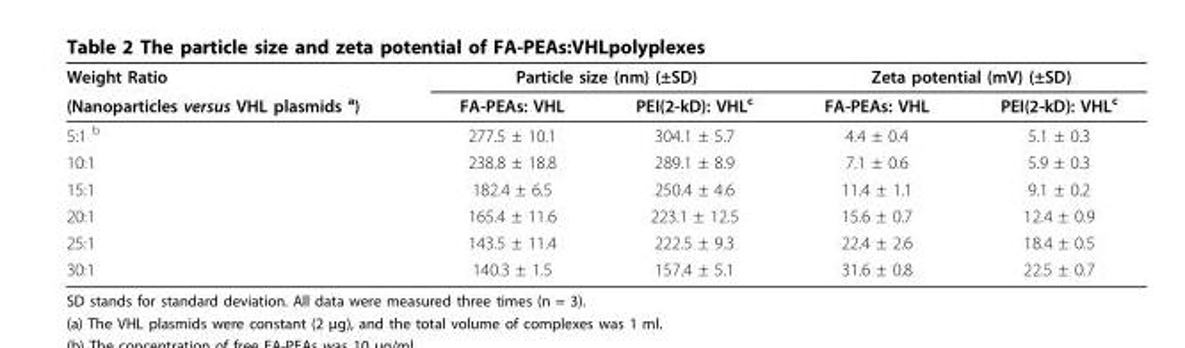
<table><thead><tr><td rowspan="2">Weight Ratio (Nanoparticles versus VHL plasmids <sup>a</sup>)</td><td colspan="2">Particle size (nm) (±SD)</td><td colspan="2">Zeta potential (mV) (±SD)</td></tr><tr><td>FA-PEAs: VHL</td><td>PEI(2-kD): VHL<sup>c</sup></td><td>FA-PEAs: VHL</td><td>PEI(2-kD): VHL<sup>c</sup></td></tr></thead><tbody><tr><td>5:1 <sup>b</sup></td><td>277.5 ± 10.1</td><td>304.1 ± 5.7</td><td>4.4 ± 0.4</td><td>5.1 ± 0.3</td></tr><tr><td>10:1</td><td>238.8 ± 18.8</td><td>289.1 ± 8.9</td><td>7.1 ± 0.6</td><td>5.9 ± 0.3</td></tr><tr><td>15:1</td><td>182.4 ± 6.5</td><td>250.4 ± 4.6</td><td>11.4 ± 1.1</td><td>9.1 ± 0.2</td></tr><tr><td>20:1</td><td>165.4 ± 11.6</td><td>223.1 ± 12.5</td><td>15.6 ± 0.7</td><td>12.4 ± 0.9</td></tr><tr><td>25:1</td><td>143.5 ± 11.4</td><td>222.5 ± 9.3</td><td>22.4 ± 2.6</td><td>18.4 ± 0.5</td></tr><tr><td>30:1</td><td>140.3 ± 1.5</td><td>157.4 ± 5.1</td><td>31.6 ± 0.8</td><td>22.5 ± 0.7</td></tr></tbody></table>